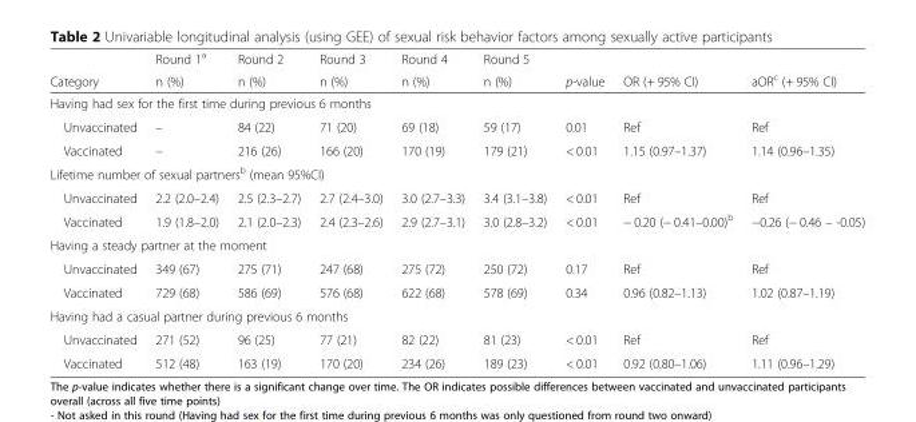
<table><thead><tr><td rowspan="2">Category</td><td rowspan="2">Round 1<sup>a</sup> n (%)</td><td rowspan="2">Round 2 n (%)</td><td rowspan="2">Round 3 n (%)</td><td rowspan="2">Round 4 n (%)</td><td rowspan="2">Round 5 n (%)</td><td rowspan="2">p-value</td><td rowspan="2">OR (+ 95% CI)</td><td rowspan="2">aOR<sup>c</sup> (+ 95% CI)</td></tr><tr></tr></thead><tbody><tr><td colspan="9">Having had sex for the first time during previous 6 months</td></tr><tr><td>Unvaccinated</td><td>–</td><td>84 (22)</td><td>71 (20)</td><td>69 (18)</td><td>59 (17)</td><td>0.01</td><td>Ref</td><td>Ref</td></tr><tr><td>Vaccinated</td><td>–</td><td>216 (26)</td><td>166 (20)</td><td>170 (19)</td><td>179 (21)</td><td>&lt; 0.01</td><td>1.15 (0.97–1.37)</td><td>1.14 (0.96–1.35)</td></tr><tr><td colspan="9">Lifetime number of sexual partners<sup>b</sup> (mean 95%CI)</td></tr><tr><td>Unvaccinated</td><td>2.2 (2.0–2.4)</td><td>2.5 (2.3–2.7)</td><td>2.7 (2.4–3.0)</td><td>3.0 (2.7–3.3)</td><td>3.4 (3.1–3.8)</td><td>&lt; 0.01</td><td>Ref</td><td>Ref</td></tr><tr><td>Vaccinated</td><td>1.9 (1.8–2.0)</td><td>2.1 (2.0–2.3)</td><td>2.4 (2.3–2.6)</td><td>2.9 (2.7–3.1)</td><td>3.0 (2.8–3.2)</td><td>&lt; 0.01</td><td>− 0.20 (− 0.41–0.00)<sup>b</sup></td><td>−0.26 (− 0.46 – -0.05)</td></tr><tr><td colspan="9">Having a steady partner at the moment</td></tr><tr><td>Unvaccinated</td><td>349 (67)</td><td>275 (71)</td><td>247 (68)</td><td>275 (72)</td><td>250 (72)</td><td>0.17</td><td>Ref</td><td>Ref</td></tr><tr><td>Vaccinated</td><td>729 (68)</td><td>586 (69)</td><td>576 (68)</td><td>622 (68)</td><td>578 (69)</td><td>0.34</td><td>0.96 (0.82–1.13)</td><td>1.02 (0.87–1.19)</td></tr><tr><td colspan="9">Having had a casual partner during previous 6 months</td></tr><tr><td>Unvaccinated</td><td>271 (52)</td><td>96 (25)</td><td>77 (21)</td><td>82 (22)</td><td>81 (23)</td><td>&lt; 0.01</td><td>Ref</td><td>Ref</td></tr><tr><td>Vaccinated</td><td>512 (48)</td><td>163 (19)</td><td>170 (20)</td><td>234 (26)</td><td>189 (23)</td><td>&lt; 0.01</td><td>0.92 (0.80–1.06)</td><td>1.11 (0.96–1.29)</td></tr></tbody></table>